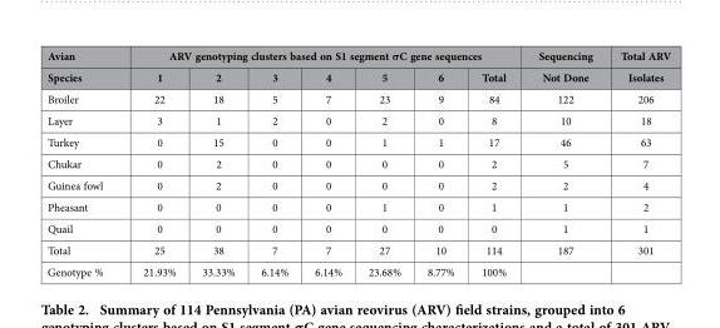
<table><thead><tr><td rowspan="2">Avian Species</td><td colspan="7">ARV genotyping clusters based on S1 segment σC gene sequences</td><td rowspan="2">Sequencing Not Done</td><td rowspan="2">Total ARV Isolates</td></tr><tr><td>1</td><td>2</td><td>3</td><td>4</td><td>5</td><td>6</td><td>Total</td></tr></thead><tbody><tr><td>Broiler</td><td>22</td><td>18</td><td>5</td><td>7</td><td>23</td><td>9</td><td>84</td><td>122</td><td>206</td></tr><tr><td>Layer</td><td>3</td><td>1</td><td>2</td><td>0</td><td>2</td><td>0</td><td>8</td><td>10</td><td>18</td></tr><tr><td>Turkey</td><td>0</td><td>15</td><td>0</td><td>0</td><td>1</td><td>1</td><td>17</td><td>46</td><td>63</td></tr><tr><td>Chukar</td><td>0</td><td>2</td><td>0</td><td>0</td><td>0</td><td>0</td><td>2</td><td>5</td><td>7</td></tr><tr><td>Guinea fowl</td><td>0</td><td>2</td><td>0</td><td>0</td><td>0</td><td>0</td><td>2</td><td>2</td><td>4</td></tr><tr><td>Pheasant</td><td>0</td><td>0</td><td>0</td><td>0</td><td>1</td><td>0</td><td>1</td><td>1</td><td>2</td></tr><tr><td>Quail</td><td>0</td><td>0</td><td>0</td><td>0</td><td>0</td><td>0</td><td>0</td><td>1</td><td>1</td></tr><tr><td>Total</td><td>25</td><td>38</td><td>7</td><td>7</td><td>27</td><td>10</td><td>114</td><td>187</td><td>301</td></tr><tr><td>Genotype %</td><td>21.93%</td><td>33.33%</td><td>6.14%</td><td>6.14%</td><td>23.68%</td><td>8.77%</td><td>100%</td><td></td><td></td></tr></tbody></table>